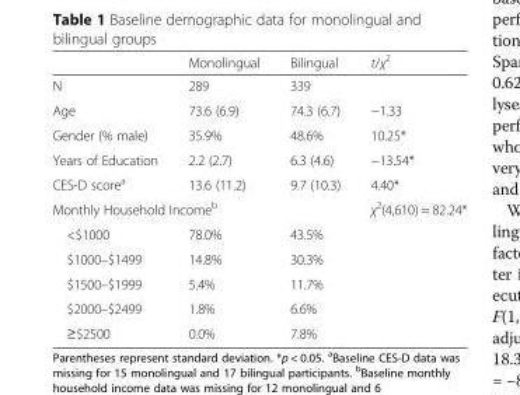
<table><thead><tr><td></td><td>Monolingual</td><td>Bilingual</td><td>t/χ<sup>2</sup></td></tr></thead><tbody><tr><td>N</td><td>289</td><td colspan="2">339</td></tr><tr><td>Age</td><td>73.6 (6.9)</td><td>74.3 (6.7)</td><td>−1.33</td></tr><tr><td>Gender (% male)</td><td>35.9%</td><td>48.6%</td><td>10.25*</td></tr><tr><td>Years of Education</td><td>2.2 (2.7)</td><td>6.3 (4.6)</td><td>−13.54*</td></tr><tr><td>CES-D score<sup>a</sup></td><td>13.6 (11.2)</td><td>9.7 (10.3)</td><td>4.40*</td></tr><tr><td colspan="3">Monthly Household Income<sup>b</sup></td><td>χ<sup>2</sup>(4,610) = 82.24*</td></tr><tr><td>&lt;$1000</td><td>78.0%</td><td>43.5%</td><td rowspan="5"></td></tr><tr><td>$1000–$1499</td><td>14.8%</td><td>30.3%</td></tr><tr><td>$1500–$1999</td><td>5.4%</td><td>11.7%</td></tr><tr><td>$2000–$2499</td><td>1.8%</td><td>6.6%</td></tr><tr><td>≥$2500</td><td>0.0%</td><td>7.8%</td></tr></tbody></table>